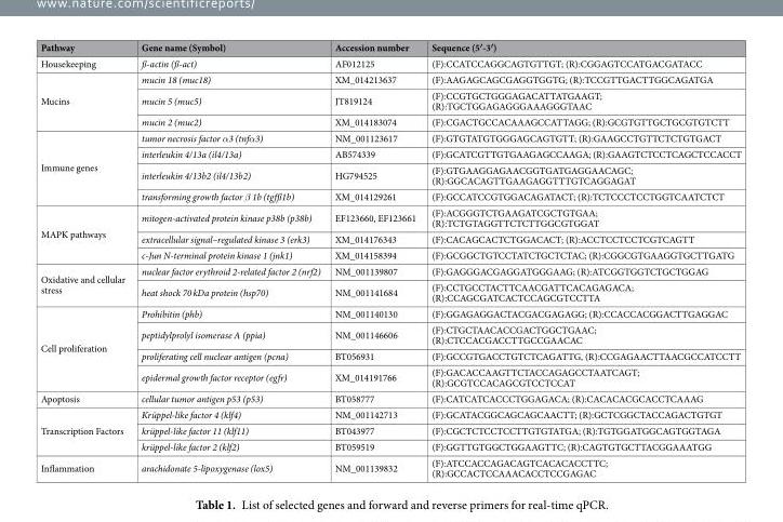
<table><thead><tr><td>Pathway</td><td>Gene name (Symbol)</td><td>Accession number</td><td>Sequence (5′-3′)</td></tr></thead><tbody><tr><td>Housekeeping</td><td>ß-actin (ß-act)</td><td>AF012125</td><td>(F):CCATCCAGGCAGTGTTGT; (R):CGGAGTCCATGACGATACC</td></tr><tr><td rowspan="3">Mucins</td><td>mucin 18 (muc18)</td><td>XM_014213637</td><td>(F):AAGAGCAGCGAGGTGGTG; (R):TCCGTTGACTTGGCAGATGA</td></tr><tr><td>mucin 5 (muc5)</td><td>JT819124</td><td>(F):CCGTGCTGGGAGACATTATGAAGT; (R):TGCTGGAGAGGGAAAGGGTAAC</td></tr><tr><td>mucin 2 (muc2)</td><td>XM_014183074</td><td>(F):CGACTGCCACAAAGCCATTAGG; (R):GCGTGTTGCTGCGTGTCTT</td></tr><tr><td rowspan="4">Immune genes</td><td>tumor necrosis factor α3 (tnfα3)</td><td>NM_001123617</td><td>(F):GTGTATGTGGGAGCAGTGTT; (R):GAAGCCTGTTCTCTGTGACT</td></tr><tr><td>interleukin 4/13a (il4/13a)</td><td>AB574339</td><td>(F):GCATCGTTGTGAAGAGCCAAGA; (R):GAAGTCTCCTCAGCTCCACCT</td></tr><tr><td>interleukin 4/13b2 (il4/13b2)</td><td>HG794525</td><td>(F):GTGAAGGAGAACGGTGATGAGGAACAGC; (R):GGCACAGTTGAAGAGGTTTGTCAGGAGAT</td></tr><tr><td>transforming growth factor β 1b (tgfß1b)</td><td>XM_014129261</td><td>(F):GCCATCCGTGGACAGATACT; (R):TCTCCCTCCTGGTCAATCTCT</td></tr><tr><td rowspan="3">MAPK pathways</td><td>mitogen-activated protein kinase p38b (p38b)</td><td>EF123660, EF123661</td><td>(F):ACGGGTCTGAAGATCGCTGTGAA; (R):TCTGTAGGTTCTCTTGGCGTGGAT</td></tr><tr><td>extracellular signal–regulated kinase 3 (erk3)</td><td>XM_014176343</td><td>(F):CACAGCACTCTGGACACT; (R):ACCTCCTCCTCGTCAGTT</td></tr><tr><td>c-Jun N-terminal protein kinase 1 (jnk1)</td><td>XM_014158394</td><td>(F):GCGGCTGTCCTATCTGCTCTAC; (R):CGGCGTGAAGGTGCTTGATG</td></tr><tr><td rowspan="2">Oxidative and cellular stress</td><td>nuclear factor erythroid 2-related factor 2 (nrf2)</td><td>NM_001139807</td><td>(F):GAGGGACGAGGATGGGAAG; (R):ATCGGTGGTCTGCTGGAG</td></tr><tr><td>heat shock 70 kDa protein (hsp70)</td><td>NM_001141684</td><td>(F):CCTGCCTACTTCAACGATTCACAGAGACA; (R):CCAGCGATCACTCCAGCGTCCTTA</td></tr><tr><td rowspan="4">Cell proliferation</td><td>Prohibitin (phb)</td><td>NM_001140130</td><td>(F):GGAGAGGACTACGACGAGAGG; (R):CCACCACGGACTTGAGGAC</td></tr><tr><td>peptidylprolyl isomerase A (ppia)</td><td>NM_001146606</td><td>(F):CTGCTAACACCGACTGGCTGAAC; (R):CTCCACGACCTTGCCGAACAC</td></tr><tr><td>proliferating cell nuclear antigen (pcna)</td><td>BT056931</td><td>(F):GCCGTGACCTGTCTCAGATTG, (R):CCGAGAACTTAACGCCATCCTT</td></tr><tr><td>epidermal growth factor receptor (egfr)</td><td>XM_014191766</td><td>(F):GACACCAAGTTCTACCAGAGCCTAATCAGT; (R):GCGTCCACAGCGTCCTCCAT</td></tr><tr><td>Apoptosis</td><td>cellular tumor antigen p53 (p53)</td><td>BT058777</td><td>(F):CATCATCACCCTGGAGACA; (R):CACACACGCACCTCAAAG</td></tr><tr><td rowspan="3">Transcription Factors</td><td>Krüppel-like factor 4 (klf4)</td><td>NM_001142713</td><td>(F):GCATACGGCAGCAGCAACTT; (R):GCTCGGCTACCAGACTGTGT</td></tr><tr><td>krüppel-like factor 11 (klf11)</td><td>BT043977</td><td>(F):CGCTCTCCTCCTTGTGTATGA; (R):TGTGGATGGCAGTGGTAGA</td></tr><tr><td>krüppel-like factor 2 (klf2)</td><td>BT059519</td><td>(F):GGTTGTGGCTGGAAGTTC; (R):CAGTGTGCTTACGGAAATGG</td></tr><tr><td>Inflammation</td><td>arachidonate 5-lipoxygenase (lox5)</td><td>NM_001139832</td><td>(F):ATCCACCAGACAGTCACACACCTTC; (R):GCCACTCCAAACACCTCCGAGAC</td></tr></tbody></table>